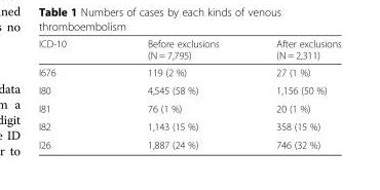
<table><thead><tr><td>ICD-10</td><td>Before exclusions (N = 7,795)</td><td>After exclusions (N = 2,311)</td></tr></thead><tbody><tr><td>I676</td><td>119 (2 %)</td><td>27 (1 %)</td></tr><tr><td>I80</td><td>4,545 (58 %)</td><td>1,156 (50 %)</td></tr><tr><td>I81</td><td>76 (1 %)</td><td>20 (1 %)</td></tr><tr><td>I82</td><td>1,143 (15 %)</td><td>358 (15 %)</td></tr><tr><td>I26</td><td>1,887 (24 %)</td><td>746 (32 %)</td></tr></tbody></table>